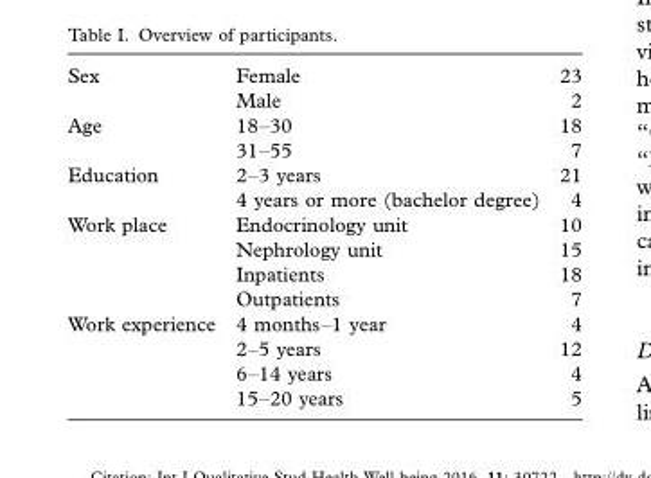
<table><tbody><tr><td rowspan="2">Sex</td><td>Female</td><td>23</td></tr><tr><td>Male</td><td>2</td></tr><tr><td rowspan="2">Age</td><td>18–30</td><td>18</td></tr><tr><td>31–55</td><td>7</td></tr><tr><td rowspan="2">Education</td><td>2–3 years</td><td>21</td></tr><tr><td>4 years or more (bachelor degree)</td><td>4</td></tr><tr><td rowspan="4">Work place</td><td>Endocrinology unit</td><td>10</td></tr><tr><td>Nephrology unit</td><td>15</td></tr><tr><td>Inpatients</td><td>18</td></tr><tr><td>Outpatients</td><td>7</td></tr><tr><td rowspan="4">Work experience</td><td>4 months–1 year</td><td>4</td></tr><tr><td>2–5 years</td><td>12</td></tr><tr><td>6–14 years</td><td>4</td></tr><tr><td>15–20 years</td><td>5</td></tr></tbody></table>